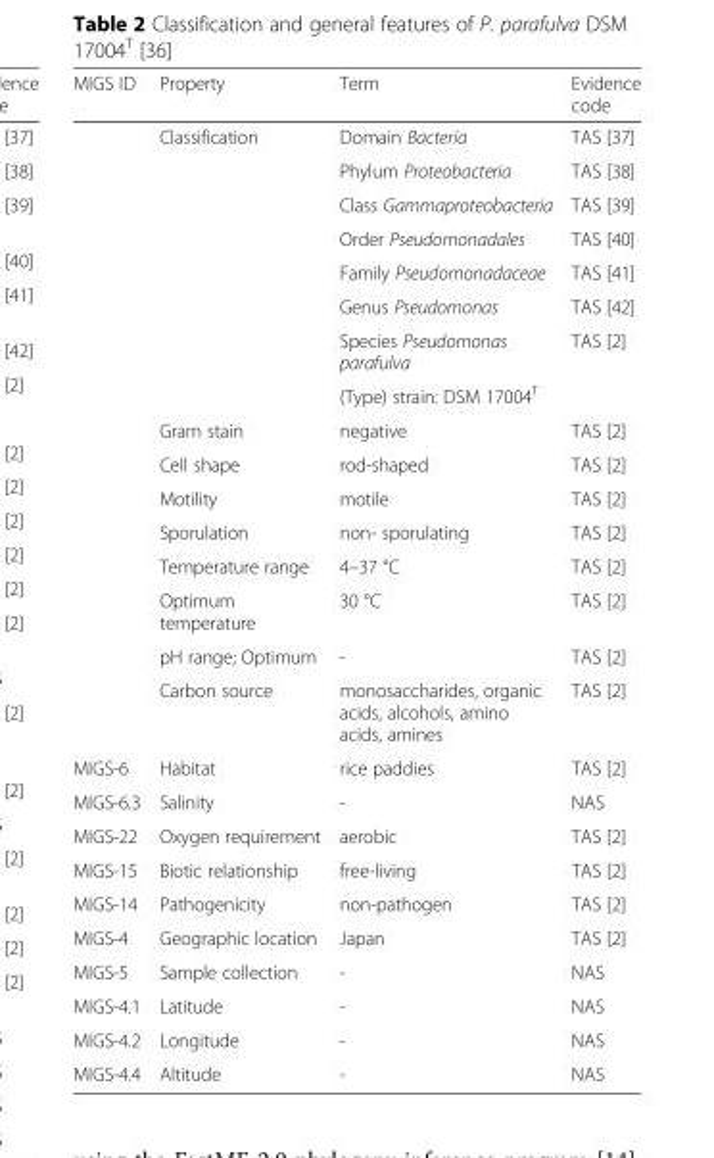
<table><thead><tr><td>MIGS ID</td><td>Property</td><td>Term</td><td>Evidence code</td></tr></thead><tbody><tr><td rowspan="16"></td><td rowspan="8">Classification</td><td>Domain Bacteria</td><td>TAS [37]</td></tr><tr><td>Phylum Proteobacteria</td><td>TAS [38]</td></tr><tr><td>Class Gammaproteobacteria</td><td>TAS [39]</td></tr><tr><td>Order Pseudomonadales</td><td>TAS [40]</td></tr><tr><td>Family Pseudomonadaceae</td><td>TAS [41]</td></tr><tr><td>Genus Pseudomonas</td><td>TAS [42]</td></tr><tr><td>Species Pseudomonas parafulva</td><td>TAS [2]</td></tr><tr><td>(Type) strain: DSM 17004<sup>T</sup></td><td></td></tr><tr><td>Gram stain</td><td>negative</td><td>TAS [2]</td></tr><tr><td>Cell shape</td><td>rod-shaped</td><td>TAS [2]</td></tr><tr><td>Motility</td><td>motile</td><td>TAS [2]</td></tr><tr><td>Sporulation</td><td>non- sporulating</td><td>TAS [2]</td></tr><tr><td>Temperature range</td><td>4–37 °C</td><td>TAS [2]</td></tr><tr><td>Optimum temperature</td><td>30 °C</td><td>TAS [2]</td></tr><tr><td>pH range; Optimum</td><td>-</td><td>TAS [2]</td></tr><tr><td>Carbon source</td><td>monosaccharides, organic acids, alcohols, amino acids, amines</td><td>TAS [2]</td></tr><tr><td>MIGS-6</td><td>Habitat</td><td>rice paddies</td><td>TAS [2]</td></tr><tr><td>MIGS-6.3</td><td>Salinity</td><td>-</td><td>NAS</td></tr><tr><td>MIGS-22</td><td>Oxygen requirement</td><td>aerobic</td><td>TAS [2]</td></tr><tr><td>MIGS-15</td><td>Biotic relationship</td><td>free-living</td><td>TAS [2]</td></tr><tr><td>MIGS-14</td><td>Pathogenicity</td><td>non-pathogen</td><td>TAS [2]</td></tr><tr><td>MIGS-4</td><td>Geographic location</td><td>Japan</td><td>TAS [2]</td></tr><tr><td>MIGS-5</td><td>Sample collection</td><td>-</td><td>NAS</td></tr><tr><td>MIGS-4.1</td><td>Latitude</td><td>-</td><td>NAS</td></tr><tr><td>MIGS-4.2</td><td>Longitude</td><td>-</td><td>NAS</td></tr><tr><td>MIGS-4.4</td><td>Altitude</td><td>-</td><td>NAS</td></tr></tbody></table>